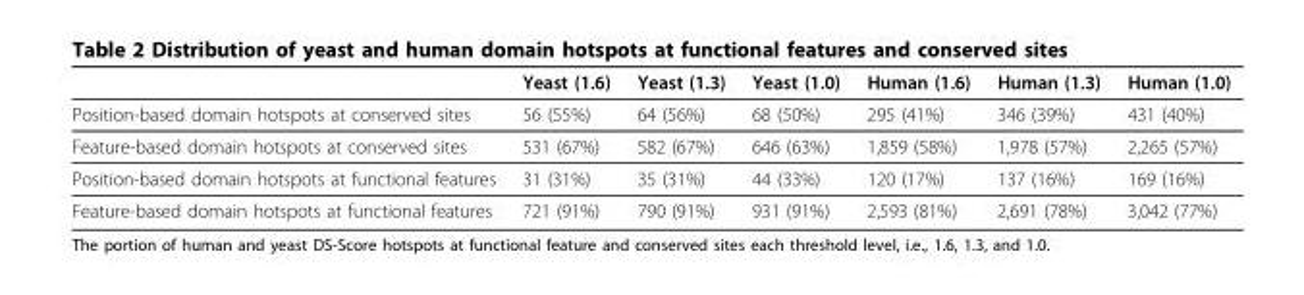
<table><thead><tr><td></td><td>Yeast (1.6)</td><td>Yeast (1.3)</td><td>Yeast (1.0)</td><td>Human (1.6)</td><td>Human (1.3)</td><td>Human (1.0)</td></tr></thead><tbody><tr><td>Position-based domain hotspots at conserved sites</td><td>56 (55%)</td><td>64 (56%)</td><td>68 (50%)</td><td>295 (41%)</td><td>346 (39%)</td><td>431 (40%)</td></tr><tr><td>Feature-based domain hotspots at conserved sites</td><td>531 (67%)</td><td>582 (67%)</td><td>646 (63%)</td><td>1,859 (58%)</td><td>1,978 (57%)</td><td>2,265 (57%)</td></tr><tr><td>Position-based domain hotspots at functional features</td><td>31 (31%)</td><td>35 (31%)</td><td>44 (33%)</td><td>120 (17%)</td><td>137 (16%)</td><td>169 (16%)</td></tr><tr><td>Feature-based domain hotspots at functional features</td><td>721 (91%)</td><td>790 (91%)</td><td>931 (91%)</td><td>2,593 (81%)</td><td>2,691 (78%)</td><td>3,042 (77%)</td></tr></tbody></table>